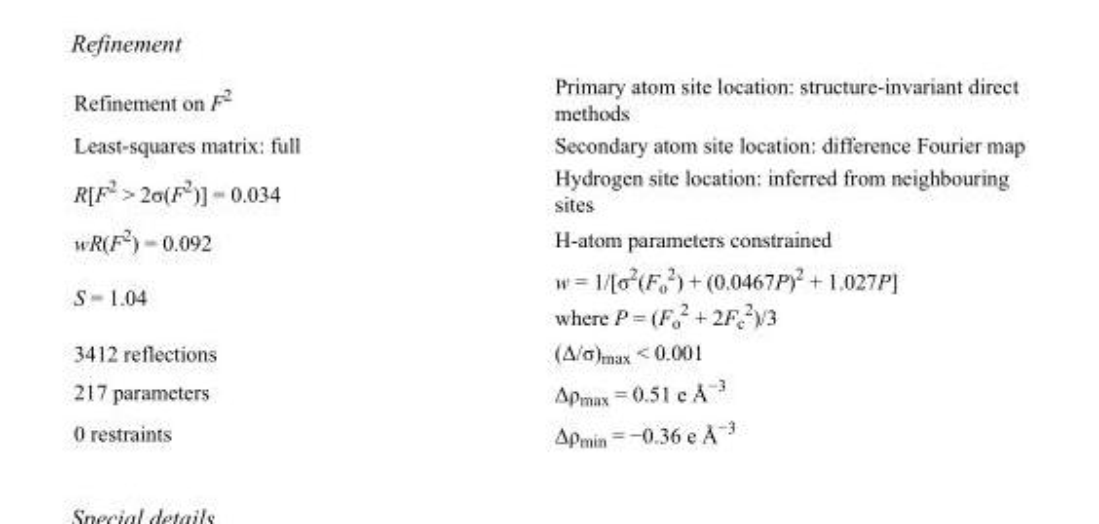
<table><tbody><tr><td>Refinement on F<sup>2</sup></td><td>Primary atom site location: structure-invariant direct methods</td></tr><tr><td>Least-squares matrix: full</td><td>Secondary atom site location: difference Fourier map</td></tr><tr><td>R[F<sup>2</sup> &gt; 2σ(F<sup>2</sup>)] = 0.034</td><td>Hydrogen site location: inferred from neighbouring sites</td></tr><tr><td>wR(F<sup>2</sup>) = 0.092</td><td>H-atom parameters constrained</td></tr><tr><td>S = 1.04</td><td>w = 1/[σ<sup>2</sup>(F<sub>o</sub> <sup>2</sup>) + (0.0467P)<sup>2</sup> + 1.027P] where P = (F<sub>o</sub> <sup>2</sup> + 2F<sub>c</sub> <sup>2</sup>)/3</td></tr><tr><td>3412 reflections</td><td>(Δ/σ)<sub>max</sub> &lt; 0.001</td></tr><tr><td>217 parameters</td><td>Δρ<sub>max</sub> = 0.51 e Å<sup>−3</sup></td></tr><tr><td>0 restraints</td><td>Δρ<sub>min</sub> = −0.36 e Å<sup>−3</sup></td></tr></tbody></table>